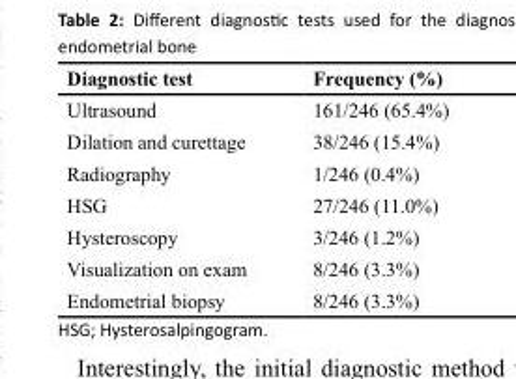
<table><thead><tr><td>Diagnostic test</td><td>Frequency (%)</td></tr></thead><tbody><tr><td>Ultrasound</td><td>161/246 (65.4%)</td></tr><tr><td>Dilation and curettage</td><td>38/246 (15.4%)</td></tr><tr><td>Radiography</td><td>1/246 (0.4%)</td></tr><tr><td>HSG</td><td>27/246 (11.0%)</td></tr><tr><td>Hysteroscopy</td><td>3/246 (1.2%)</td></tr><tr><td>Visualization on exam</td><td>8/246 (3.3%)</td></tr><tr><td>Endometrial biopsy</td><td>8/246 (3.3%)</td></tr></tbody></table>